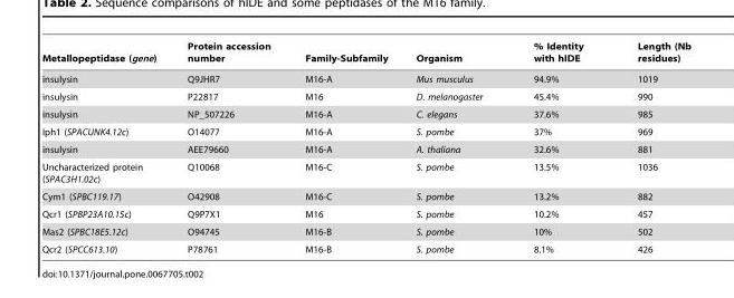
<table><thead><tr><td>Metallopeptidase (gene)</td><td>Protein accession number</td><td>Family-Subfamily</td><td>Organism</td><td>% Identity with hIDE</td><td>Length (Nb residues)</td></tr></thead><tbody><tr><td>insulysin</td><td>Q9JHR7</td><td>M16-A</td><td>Mus musculus</td><td>94.9%</td><td>1019</td></tr><tr><td>insulysin</td><td>P22817</td><td>M16</td><td>D. melanogaster</td><td>45.4%</td><td>990</td></tr><tr><td>insulysin</td><td>NP_507226</td><td>M16-A</td><td>C. elegans</td><td>37.6%</td><td>985</td></tr><tr><td>Iph1 (SPACUNK4.12c)</td><td>O14077</td><td>M16-A</td><td>S. pombe</td><td>37%</td><td>969</td></tr><tr><td>insulysin</td><td>AEE79660</td><td>M16-A</td><td>A. thaliana</td><td>32.6%</td><td>881</td></tr><tr><td>Uncharacterized protein (SPAC3H1.02c)</td><td>Q10068</td><td>M16-C</td><td>S. pombe</td><td>13.5%</td><td>1036</td></tr><tr><td>Cym1 (SPBC119.17)</td><td>O42908</td><td>M16-C</td><td>S. pombe</td><td>13.2%</td><td>882</td></tr><tr><td>Qcr1 (SPBP23A10.15c)</td><td>Q9P7X1</td><td>M16</td><td>S. pombe</td><td>10.2%</td><td>457</td></tr><tr><td>Mas2 (SPBC18E5.12c)</td><td>O94745</td><td>M16-B</td><td>S. pombe</td><td>10%</td><td>502</td></tr><tr><td>Qcr2 (SPCC613.10)</td><td>P78761</td><td>M16-B</td><td>S. pombe</td><td>8.1%</td><td>426</td></tr></tbody></table>